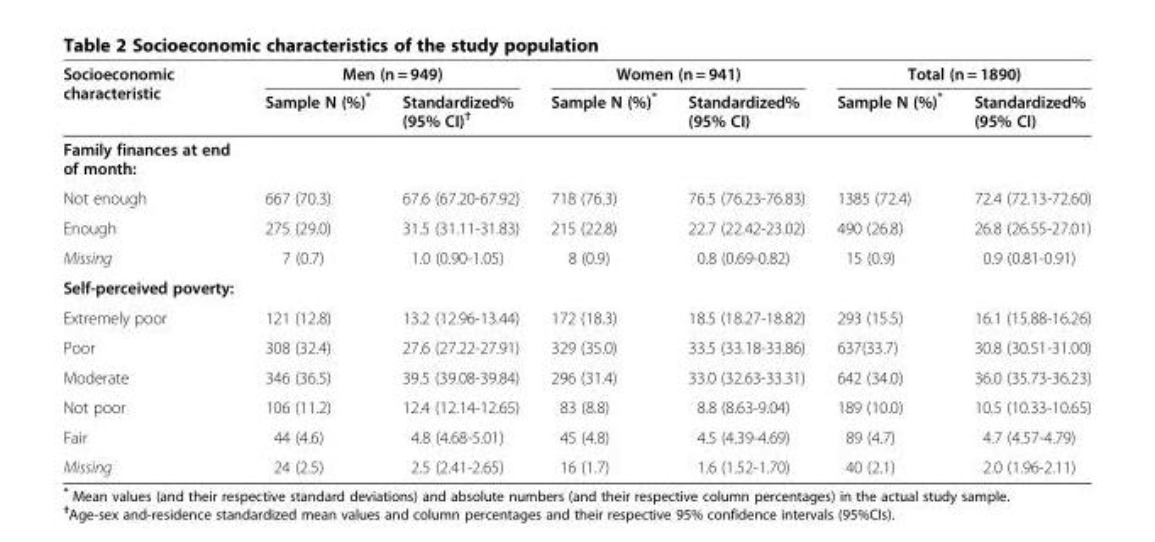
<table><thead><tr><td rowspan="2">Socioeconomic characteristic</td><td colspan="2">Men (n = 949)</td><td colspan="2">Women (n = 941)</td><td colspan="2">Total (n = 1890)</td></tr><tr><td>Sample N (%)*</td><td>Standardized% (95% CI)<sup>†</sup></td><td>Sample N (%)*</td><td>Standardized% (95% CI)</td><td>Sample N (%)*</td><td>Standardized% (95% CI)</td></tr></thead><tbody><tr><td colspan="7">Family finances at end of month:</td></tr><tr><td>Not enough</td><td>667 (70.3)</td><td>67.6 (67.20-67.92)</td><td>718 (76.3)</td><td>76.5 (76.23-76.83)</td><td>1385 (72.4)</td><td>72.4 (72.13-72.60)</td></tr><tr><td>Enough</td><td>275 (29.0)</td><td>31.5 (31.11-31.83)</td><td>215 (22.8)</td><td>22.7 (22.42-23.02)</td><td>490 (26.8)</td><td>26.8 (26.55-27.01)</td></tr><tr><td>Missing</td><td>7 (0.7)</td><td>1.0 (0.90-1.05)</td><td>8 (0.9)</td><td>0.8 (0.69-0.82)</td><td>15 (0.9)</td><td>0.9 (0.81-0.91)</td></tr><tr><td colspan="7">Self-perceived poverty:</td></tr><tr><td>Extremely poor</td><td>121 (12.8)</td><td>13.2 (12.96-13.44)</td><td>172 (18.3)</td><td>18.5 (18.27-18.82)</td><td>293 (15.5)</td><td>16.1 (15.88-16.26)</td></tr><tr><td>Poor</td><td>308 (32.4)</td><td>27.6 (27.22-27.91)</td><td>329 (35.0)</td><td>33.5 (33.18-33.86)</td><td>637(33.7)</td><td>30.8 (30.51-31.00)</td></tr><tr><td>Moderate</td><td>346 (36.5)</td><td>39.5 (39.08-39.84)</td><td>296 (31.4)</td><td>33.0 (32.63-33.31)</td><td>642 (34.0)</td><td>36.0 (35.73-36.23)</td></tr><tr><td>Not poor</td><td>106 (11.2)</td><td>12.4 (12.14-12.65)</td><td>83 (8.8)</td><td>8.8 (8.63-9.04)</td><td>189 (10.0)</td><td>10.5 (10.33-10.65)</td></tr><tr><td>Fair</td><td>44 (4.6)</td><td>4.8 (4.68-5.01)</td><td>45 (4.8)</td><td>4.5 (4.39-4.69)</td><td>89 (4.7)</td><td>4.7 (4.57-4.79)</td></tr><tr><td>Missing</td><td>24 (2.5)</td><td>2.5 (2.41-2.65)</td><td>16 (1.7)</td><td>1.6 (1.52-1.70)</td><td>40 (2.1)</td><td>2.0 (1.96-2.11)</td></tr></tbody></table>